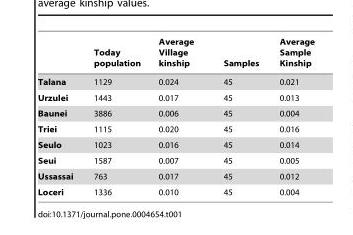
<table><thead><tr><td></td><td>Today population</td><td>Average Village kinship</td><td>Samples</td><td>Average Sample Kinship</td></tr></thead><tbody><tr><td>Talana</td><td>1129</td><td>0.024</td><td>45</td><td>0.021</td></tr><tr><td>Urzulei</td><td>1443</td><td>0.017</td><td>45</td><td>0.013</td></tr><tr><td>Baunei</td><td>3886</td><td>0.006</td><td>45</td><td>0.004</td></tr><tr><td>Triei</td><td>1115</td><td>0.020</td><td>45</td><td>0.016</td></tr><tr><td>Seulo</td><td>1023</td><td>0.016</td><td>45</td><td>0.014</td></tr><tr><td>Seui</td><td>1587</td><td>0.007</td><td>45</td><td>0.005</td></tr><tr><td>Ussassai</td><td>763</td><td>0.017</td><td>45</td><td>0.012</td></tr><tr><td>Loceri</td><td>1336</td><td>0.010</td><td>45</td><td>0.004</td></tr></tbody></table>